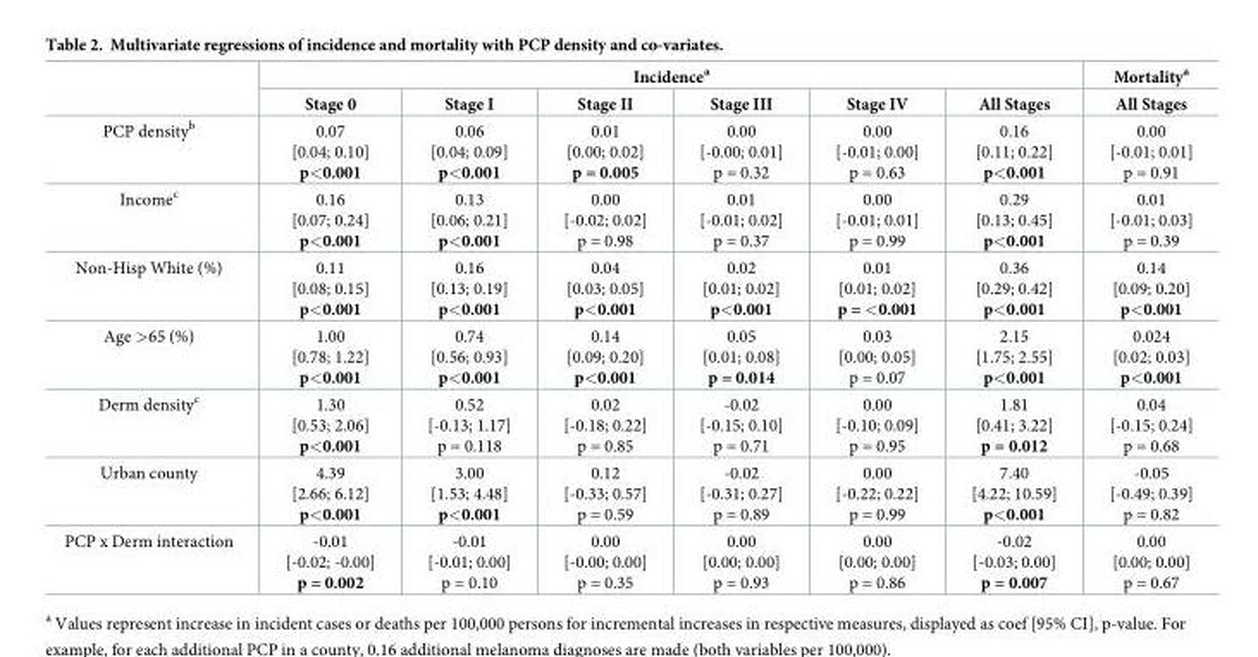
<table><thead><tr><td rowspan="2"></td><td colspan="6">Incidence<sup>a</sup></td><td rowspan="2">Mortality<sup>a</sup> All Stages</td></tr><tr><td>Stage 0</td><td>Stage I</td><td>Stage II</td><td>Stage III</td><td>Stage IV</td><td>All Stages</td></tr></thead><tbody><tr><td>PCP density<sup>b</sup></td><td>0.07 [0.04; 0.10] p&lt;0.001</td><td>0.06 [0.04; 0.09] p&lt;0.001</td><td>0.01 [0.00; 0.02] p = 0.005</td><td>0.00 [-0.00; 0.01] p = 0.32</td><td>0.00 [-0.01; 0.00] p = 0.63</td><td>0.16 [0.11; 0.22] p&lt;0.001</td><td>0.00 [-0.01; 0.01] p = 0.91</td></tr><tr><td>Income<sup>c</sup></td><td>0.16 [0.07; 0.24] p&lt;0.001</td><td>0.13 [0.06; 0.21] p&lt;0.001</td><td>0.00 [-0.02; 0.02] p = 0.98</td><td>0.01 [-0.01; 0.02] p = 0.37</td><td>0.00 [-0.01; 0.01] p = 0.99</td><td>0.29 [0.13; 0.45] p&lt;0.001</td><td>0.01 [-0.01; 0.03] p = 0.39</td></tr><tr><td>Non-Hisp White (%)</td><td>0.11 [0.08; 0.15] p&lt;0.001</td><td>0.16 [0.13; 0.19] p&lt;0.001</td><td>0.04 [0.03; 0.05] p&lt;0.001</td><td>0.02 [0.01; 0.02] p&lt;0.001</td><td>0.01 [0.01; 0.02] p = &lt;0.001</td><td>0.36 [0.29; 0.42] p&lt;0.001</td><td>0.14 [0.09; 0.20] p&lt;0.001</td></tr><tr><td>Age &gt;65 (%)</td><td>1.00 [0.78; 1.22] p&lt;0.001</td><td>0.74 [0.56; 0.93] p&lt;0.001</td><td>0.14 [0.09; 0.20] p&lt;0.001</td><td>0.05 [0.01; 0.08] p = 0.014</td><td>0.03 [0.00; 0.05] p = 0.07</td><td>2.15 [1.75; 2.55] p&lt;0.001</td><td>0.024 [0.02; 0.03] p&lt;0.001</td></tr><tr><td>Derm density<sup>c</sup></td><td>1.30 [0.53; 2.06] p&lt;0.001</td><td>0.52 [-0.13; 1.17] p = 0.118</td><td>0.02 [-0.18; 0.22] p = 0.85</td><td>-0.02 [-0.15; 0.10] p = 0.71</td><td>0.00 [-0.10; 0.09] p = 0.95</td><td>1.81 [0.41; 3.22] p = 0.012</td><td>0.04 [-0.15; 0.24] p = 0.68</td></tr><tr><td>Urban county</td><td>4.39 [2.66; 6.12] p&lt;0.001</td><td>3.00 [1.53; 4.48] p&lt;0.001</td><td>0.12 [-0.33; 0.57] p = 0.59</td><td>-0.02 [-0.31; 0.27] p = 0.89</td><td>0.00 [-0.22; 0.22] p = 0.99</td><td>7.40 [4.22; 10.59] p&lt;0.001</td><td>-0.05 [-0.49; 0.39] p = 0.82</td></tr><tr><td>PCP x Derm interaction</td><td>-0.01 [-0.02; -0.00] p = 0.002</td><td>-0.01 [-0.01; 0.00] p = 0.10</td><td>0.00 [-0.00; 0.00] p = 0.35</td><td>0.00 [0.00; 0.00] p = 0.93</td><td>0.00 [0.00; 0.00] p = 0.86</td><td>-0.02 [-0.03; 0.00] p = 0.007</td><td>0.00 [0.00; 0.00] p = 0.67</td></tr></tbody></table>